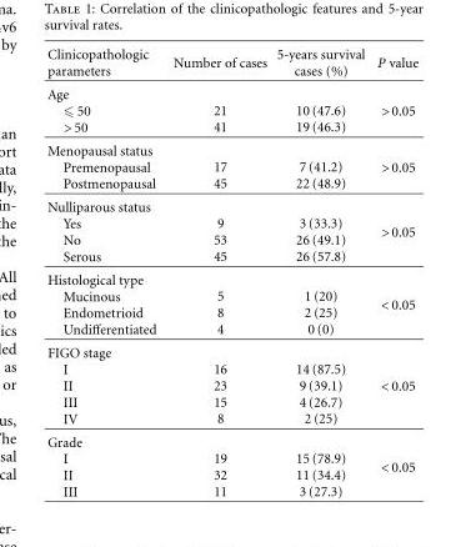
<table><thead><tr><td>Clinicopathologic parameters</td><td>Number of cases</td><td>5-years survival cases (%)</td><td>P value</td></tr></thead><tbody><tr><td>Age ⩽ 50 &gt; 50</td><td>21 41</td><td>10 (47.6) 19 (46.3)</td><td>&gt; 0.05</td></tr><tr><td>Menopausal status Premenopausal Postmenopausal</td><td>17 45</td><td>7 (41.2) 22 (48.9)</td><td>&gt; 0.05</td></tr><tr><td>Nulliparous status Yes No Serous</td><td>9 53 45</td><td>3 (33.3) 26 (49.1) 26 (57.8)</td><td>&gt; 0.05</td></tr><tr><td>Histological type Mucinous Endometrioid Undifferentiated</td><td>5 8 4</td><td>1 (20) 2 (25) 0 (0)</td><td>&lt; 0.05</td></tr><tr><td>FIGO stage I II III IV</td><td>16 23 15 8</td><td>14 (87.5) 9 (39.1) 4 (26.7) 2 (25)</td><td>&lt; 0.05</td></tr><tr><td>Grade I II III</td><td>19 32 11</td><td>15 (78.9) 11 (34.4) 3 (27.3)</td><td>&lt; 0.05</td></tr></tbody></table>